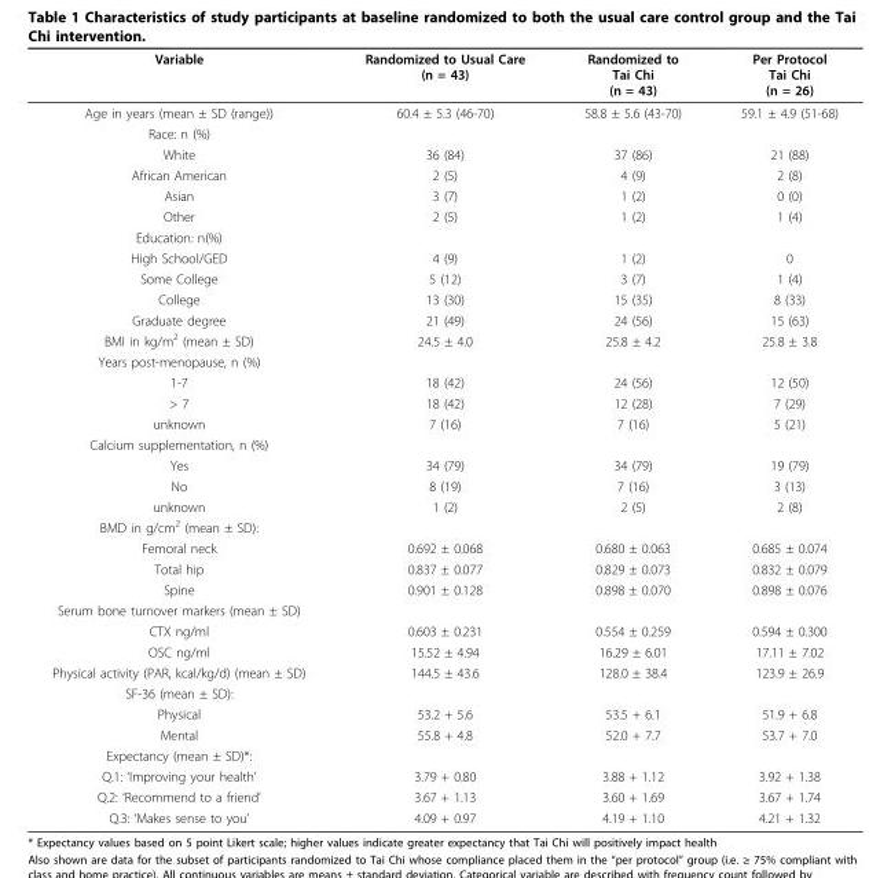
<table><thead><tr><td>Variable</td><td>Randomized to Usual Care (n = 43)</td><td>Randomized to Tai Chi (n = 43)</td><td>Per Protocol Tai Chi (n = 26)</td></tr></thead><tbody><tr><td>Age in years (mean ± SD (range))</td><td>60.4 ± 5.3 (46-70)</td><td>58.8 ± 5.6 (43-70)</td><td>59.1 ± 4.9 (51-68)</td></tr><tr><td colspan="4">Race: n (%)</td></tr><tr><td>White</td><td>36 (84)</td><td>37 (86)</td><td>21 (88)</td></tr><tr><td>African American</td><td>2 (5)</td><td>4 (9)</td><td>2 (8)</td></tr><tr><td>Asian</td><td>3 (7)</td><td>1 (2)</td><td>0 (0)</td></tr><tr><td>Other</td><td>2 (5)</td><td>1 (2)</td><td>1 (4)</td></tr><tr><td colspan="4">Education: n(%)</td></tr><tr><td>High School/GED</td><td>4 (9)</td><td>1 (2)</td><td>0</td></tr><tr><td>Some College</td><td>5 (12)</td><td>3 (7)</td><td>1 (4)</td></tr><tr><td>College</td><td>13 (30)</td><td>15 (35)</td><td>8 (33)</td></tr><tr><td>Graduate degree</td><td>21 (49)</td><td>24 (56)</td><td>15 (63)</td></tr><tr><td>BMI in kg/m<sup>2</sup> (mean ± SD)</td><td>24.5 ± 4.0</td><td>25.8 ± 4.2</td><td>25.8 ± 3.8</td></tr><tr><td colspan="4">Years post-menopause, n (%)</td></tr><tr><td>1-7</td><td>18 (42)</td><td>24 (56)</td><td>12 (50)</td></tr><tr><td>&gt; 7</td><td>18 (42)</td><td>12 (28)</td><td>7 (29)</td></tr><tr><td>unknown</td><td>7 (16)</td><td>7 (16)</td><td>5 (21)</td></tr><tr><td colspan="4">Calcium supplementation, n (%)</td></tr><tr><td>Yes</td><td>34 (79)</td><td>34 (79)</td><td>19 (79)</td></tr><tr><td>No</td><td>8 (19)</td><td>7 (16)</td><td>3 (13)</td></tr><tr><td>unknown</td><td>1 (2)</td><td>2 (5)</td><td>2 (8)</td></tr><tr><td colspan="4">BMD in g/cm<sup>2</sup> (mean ± SD):</td></tr><tr><td>Femoral neck</td><td>0.692 ± 0.068</td><td>0.680 ± 0.063</td><td>0.685 ± 0.074</td></tr><tr><td>Total hip</td><td>0.837 ± 0.077</td><td>0.829 ± 0.073</td><td>0.832 ± 0.079</td></tr><tr><td>Spine</td><td>0.901 ± 0.128</td><td>0.898 ± 0.070</td><td>0.898 ± 0.076</td></tr><tr><td colspan="4">Serum bone turnover markers (mean ± SD)</td></tr><tr><td>CTX ng/ml</td><td>0.603 ± 0.231</td><td>0.554 ± 0.259</td><td>0.594 ± 0.300</td></tr><tr><td>OSC ng/ml</td><td>15.52 ± 4.94</td><td>16.29 ± 6.01</td><td>17.11 ± 7.02</td></tr><tr><td>Physical activity (PAR, kcal/kg/d) (mean ± SD)</td><td>144.5 ± 43.6</td><td>128.0 ± 38.4</td><td>123.9 ± 26.9</td></tr><tr><td colspan="4">SF-36 (mean ± SD):</td></tr><tr><td>Physical</td><td>53.2 + 5.6</td><td>53.5 + 6.1</td><td>51.9 + 6.8</td></tr><tr><td>Mental</td><td>55.8 + 4.8</td><td>52.0 + 7.7</td><td>53.7 + 7.0</td></tr><tr><td colspan="4">Expectancy (mean ± SD)*:</td></tr><tr><td>Q.1: ‘Improving your health’</td><td>3.79 + 0.80</td><td>3.88 + 1.12</td><td>3.92 + 1.38</td></tr><tr><td>Q.2: ‘Recommend to a friend’</td><td>3.67 + 1.13</td><td>3.60 + 1.69</td><td>3.67 + 1.74</td></tr><tr><td>Q.3: ‘Makes sense to you’</td><td>4.09 + 0.97</td><td>4.19 + 1.10</td><td>4.21 + 1.32</td></tr></tbody></table>